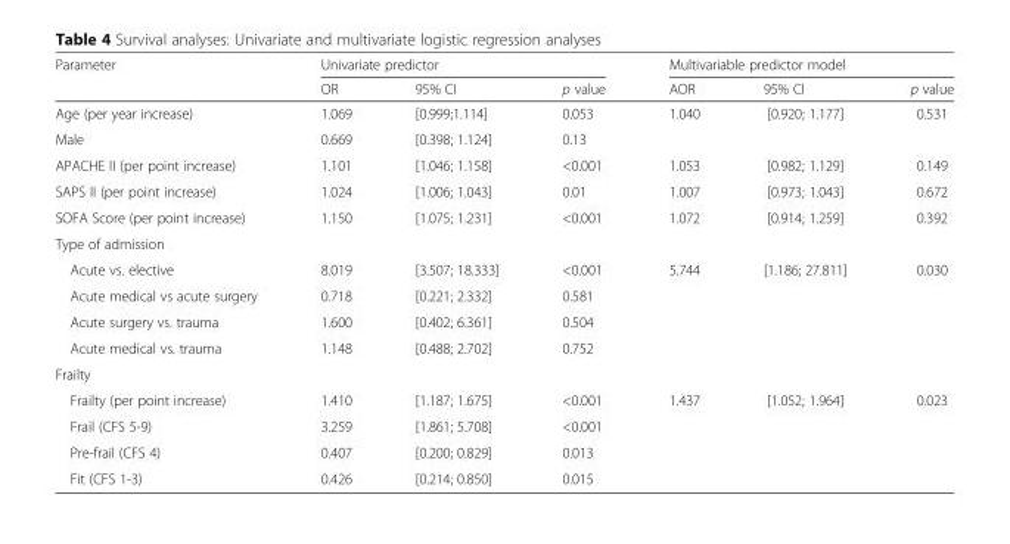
<table><thead><tr><td rowspan="2">Parameter</td><td colspan="3">Univariate predictor</td><td colspan="3">Multivariable predictor model</td></tr><tr><td>OR</td><td>95% CI</td><td>p value</td><td>AOR</td><td>95% CI</td><td>p value</td></tr></thead><tbody><tr><td>Age (per year increase)</td><td>1.069</td><td>[0.999;1.114]</td><td>0.053</td><td>1.040</td><td>[0.920; 1.177]</td><td>0.531</td></tr><tr><td>Male</td><td>0.669</td><td>[0.398; 1.124]</td><td>0.13</td><td></td><td></td><td></td></tr><tr><td>APACHE II (per point increase)</td><td>1.101</td><td>[1.046; 1.158]</td><td>&lt;0.001</td><td>1.053</td><td>[0.982; 1.129]</td><td>0.149</td></tr><tr><td>SAPS II (per point increase)</td><td>1.024</td><td>[1.006; 1.043]</td><td>0.01</td><td>1.007</td><td>[0.973; 1.043]</td><td>0.672</td></tr><tr><td>SOFA Score (per point increase)</td><td>1.150</td><td>[1.075; 1.231]</td><td>&lt;0.001</td><td>1.072</td><td>[0.914; 1.259]</td><td>0.392</td></tr><tr><td colspan="7">Type of admission</td></tr><tr><td>Acute vs. elective</td><td>8.019</td><td>[3.507; 18.333]</td><td>&lt;0.001</td><td>5.744</td><td>[1.186; 27.811]</td><td>0.030</td></tr><tr><td>Acute medical vs acute surgery</td><td>0.718</td><td>[0.221; 2.332]</td><td>0.581</td><td></td><td></td><td></td></tr><tr><td>Acute surgery vs. trauma</td><td>1.600</td><td>[0.402; 6.361]</td><td>0.504</td><td></td><td></td><td></td></tr><tr><td>Acute medical vs. trauma</td><td>1.148</td><td>[0.488; 2.702]</td><td>0.752</td><td></td><td></td><td></td></tr><tr><td colspan="7">Frailty</td></tr><tr><td>Frailty (per point increase)</td><td>1.410</td><td>[1.187; 1.675]</td><td>&lt;0.001</td><td>1.437</td><td>[1.052; 1.964]</td><td>0.023</td></tr><tr><td>Frail (CFS 5-9)</td><td>3.259</td><td>[1.861; 5.708]</td><td>&lt;0.001</td><td></td><td></td><td></td></tr><tr><td>Pre-frail (CFS 4)</td><td>0.407</td><td>[0.200; 0.829]</td><td>0.013</td><td></td><td></td><td></td></tr><tr><td>Fit (CFS 1-3)</td><td>0.426</td><td>[0.214; 0.850]</td><td>0.015</td><td></td><td></td><td></td></tr></tbody></table>